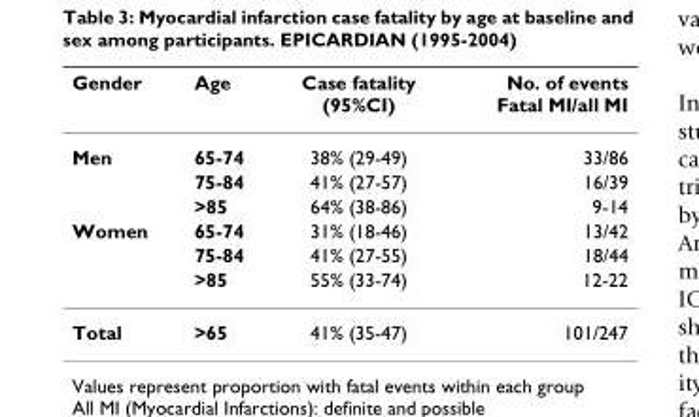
<table><thead><tr><td>Gender</td><td>Age</td><td>Case fatality (95%CI)</td><td>No. of events Fatal MI/all MI</td></tr></thead><tbody><tr><td rowspan="3">Men</td><td>65-74</td><td>38% (29-49)</td><td>33/86</td></tr><tr><td>75-84</td><td>41% (27-57)</td><td>16/39</td></tr><tr><td>&gt;85</td><td>64% (38-86)</td><td>9-14</td></tr><tr><td rowspan="3">Women</td><td>65-74</td><td>31% (18-46)</td><td>13/42</td></tr><tr><td>75-84</td><td>41% (27-55)</td><td>18/44</td></tr><tr><td>&gt;85</td><td>55% (33-74)</td><td>12-22</td></tr><tr><td>Total</td><td>&gt;65</td><td>41% (35-47)</td><td>101/247</td></tr></tbody></table>